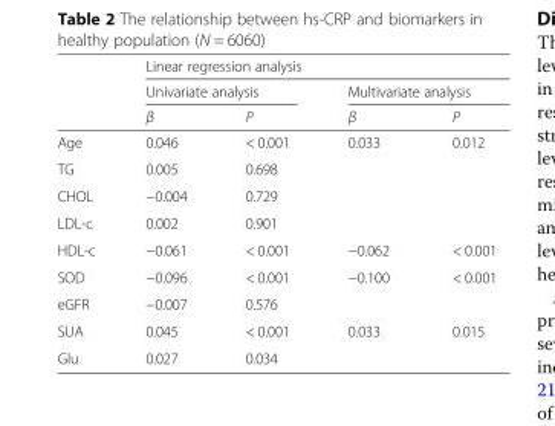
<table><thead><tr><td rowspan="3"></td><td colspan="4">Linear regression analysis</td></tr><tr><td colspan="2">Univariate analysis</td><td colspan="2">Multivariate analysis</td></tr><tr><td>β</td><td>P</td><td>β</td><td>P</td></tr></thead><tbody><tr><td>Age</td><td>0.046</td><td>&lt; 0.001</td><td>0.033</td><td>0.012</td></tr><tr><td>TG</td><td>0.005</td><td>0.698</td><td></td><td></td></tr><tr><td>CHOL</td><td>−0.004</td><td>0.729</td><td></td><td></td></tr><tr><td>LDL-c</td><td>0.002</td><td>0.901</td><td></td><td></td></tr><tr><td>HDL-c</td><td>−0.061</td><td>&lt; 0.001</td><td>−0.062</td><td>&lt; 0.001</td></tr><tr><td>SOD</td><td>−0.096</td><td>&lt; 0.001</td><td>−0.100</td><td>&lt; 0.001</td></tr><tr><td>eGFR</td><td>−0.007</td><td>0.576</td><td></td><td></td></tr><tr><td>SUA</td><td>0.045</td><td>&lt; 0.001</td><td>0.033</td><td>0.015</td></tr><tr><td>Glu</td><td>0.027</td><td>0.034</td><td></td><td></td></tr></tbody></table>